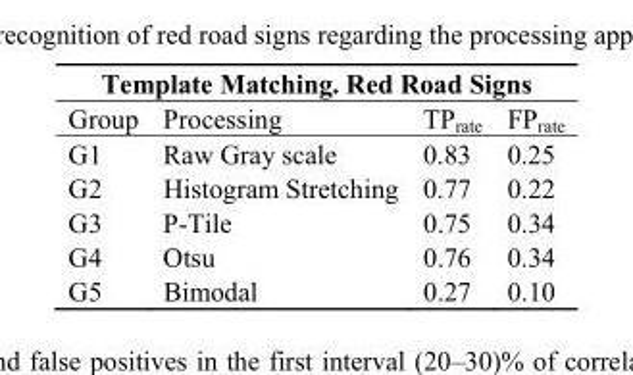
<table><thead><tr><td colspan="4">Template Matching. Red Road Signs</td></tr><tr><td>Group</td><td>Processing</td><td>TP<sub>rate</sub></td><td>FP<sub>rate</sub></td></tr></thead><tbody><tr><td>G1</td><td>Raw Gray scale</td><td>0.83</td><td>0.25</td></tr><tr><td>G2</td><td>Histogram Stretching</td><td>0.77</td><td>0.22</td></tr><tr><td>G3</td><td>P-Tile</td><td>0.75</td><td>0.34</td></tr><tr><td>G4</td><td>Otsu</td><td>0.76</td><td>0.34</td></tr><tr><td>G5</td><td>Bimodal</td><td>0.27</td><td>0.10</td></tr></tbody></table>